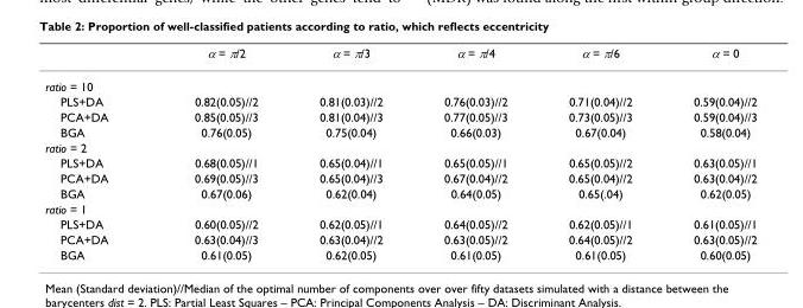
<table><thead><tr><td></td><td>α = π/2</td><td>α = π/3</td><td>α = π/4</td><td>α = π/6</td><td>α = 0</td></tr></thead><tbody><tr><td colspan="6">ratio = 10</td></tr><tr><td>PLS+DA</td><td>0.82(0.05)//2</td><td>0.81(0.03)//2</td><td>0.76(0.03)//2</td><td>0.71(0.04)//2</td><td>0.59(0.04)//2</td></tr><tr><td>PCA+DA</td><td>0.85(0.05)//3</td><td>0.81(0.04)//3</td><td>0.77(0.05)//3</td><td>0.73(0.05)//3</td><td>0.59(0.04)//3</td></tr><tr><td>BGA</td><td>0.76(0.05)</td><td>0.75(0.04)</td><td>0.66(0.03)</td><td>0.67(0.04)</td><td>0.58(0.04)</td></tr><tr><td colspan="6">ratio = 2</td></tr><tr><td>PLS+DA</td><td>0.68(0.05)//1</td><td>0.65(0.04)//1</td><td>0.65(0.05)//1</td><td>0.65(0.05)//2</td><td>0.63(0.05)//1</td></tr><tr><td>PCA+DA</td><td>0.69(0.05)//3</td><td>0.65(0.04)//3</td><td>0.67(0.04)//2</td><td>0.65(0.04)//2</td><td>0.63(0.04)//2</td></tr><tr><td>BGA</td><td>0.67(0.06)</td><td>0.62(0.04)</td><td>0.64(0.05)</td><td>0.65(.04)</td><td>0.62(0.05)</td></tr><tr><td colspan="6">ratio = 1</td></tr><tr><td>PLS+DA</td><td>0.60(0.05)//2</td><td>0.62(0.05)//1</td><td>0.64(0.05)//2</td><td>0.62(0.05)//1</td><td>0.61(0.05)//1</td></tr><tr><td>PCA+DA</td><td>0.63(0.04)//3</td><td>0.63(0.04)//2</td><td>0.63(0.05)//2</td><td>0.64(0.05)//2</td><td>0.63(0.05)//2</td></tr><tr><td>BGA</td><td>0.61(0.05)</td><td>0.62(0.05)</td><td>0.61(0.05)</td><td>0.61(0.05)</td><td>0.60(0.05)</td></tr></tbody></table>